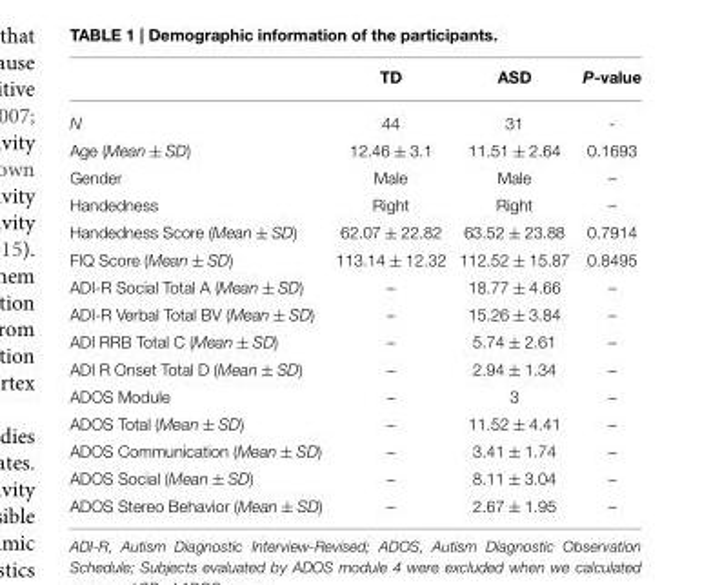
<table><thead><tr><td></td><td>TD</td><td>ASD</td><td>P-value</td></tr></thead><tbody><tr><td>N</td><td>44</td><td>31</td><td>-</td></tr><tr><td>Age (Mean ± SD)</td><td>12.46 ± 3.1</td><td>11.51 ± 2.64</td><td>0.1693</td></tr><tr><td>Gender</td><td>Male</td><td>Male</td><td>–</td></tr><tr><td>Handedness</td><td>Right</td><td>Right</td><td>–</td></tr><tr><td>Handedness Score (Mean ± SD)</td><td>62.07 ± 22.82</td><td>63.52 ± 23.88</td><td>0.7914</td></tr><tr><td>FIQ Score (Mean ± SD)</td><td>113.14 ± 12.32</td><td>112.52 ± 15.87</td><td>0.8495</td></tr><tr><td>ADI-R Social Total A (Mean ± SD)</td><td>–</td><td>18.77 ± 4.66</td><td>–</td></tr><tr><td>ADI-R Verbal Total BV (Mean ± SD)</td><td>–</td><td>15.26 ± 3.84</td><td>–</td></tr><tr><td>ADI RRB Total C (Mean ± SD)</td><td>–</td><td>5.74 ± 2.61</td><td>–</td></tr><tr><td>ADI R Onset Total D (Mean ± SD)</td><td>–</td><td>2.94 ± 1.34</td><td>–</td></tr><tr><td>ADOS Module</td><td>–</td><td>3</td><td>–</td></tr><tr><td>ADOS Total (Mean ± SD)</td><td>–</td><td>11.52 ± 4.41</td><td>–</td></tr><tr><td>ADOS Communication (Mean ± SD)</td><td>–</td><td>3.41 ± 1.74</td><td>–</td></tr><tr><td>ADOS Social (Mean ± SD)</td><td>–</td><td>8.11 ± 3.04</td><td>–</td></tr><tr><td>ADOS Stereo Behavior (Mean ± SD)</td><td>–</td><td>2.67 ± 1.95</td><td>–</td></tr></tbody></table>